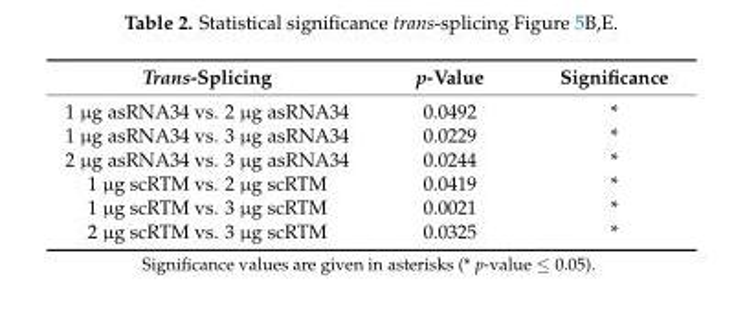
<table><thead><tr><td>Trans-Splicing</td><td>p-Value</td><td>Significance</td></tr></thead><tbody><tr><td>1 µg asRNA34 vs. 2 µg asRNA34</td><td>0.0492</td><td>*</td></tr><tr><td>1 µg asRNA34 vs. 3 µg asRNA34</td><td>0.0229</td><td>*</td></tr><tr><td>2 µg asRNA34 vs. 3 µg asRNA34</td><td>0.0244</td><td>*</td></tr><tr><td>1 µg scRTM vs. 2 µg scRTM</td><td>0.0419</td><td>*</td></tr><tr><td>1 µg scRTM vs. 3 µg scRTM</td><td>0.0021</td><td>*</td></tr><tr><td>2 µg scRTM vs. 3 µg scRTM</td><td>0.0325</td><td>*</td></tr></tbody></table>